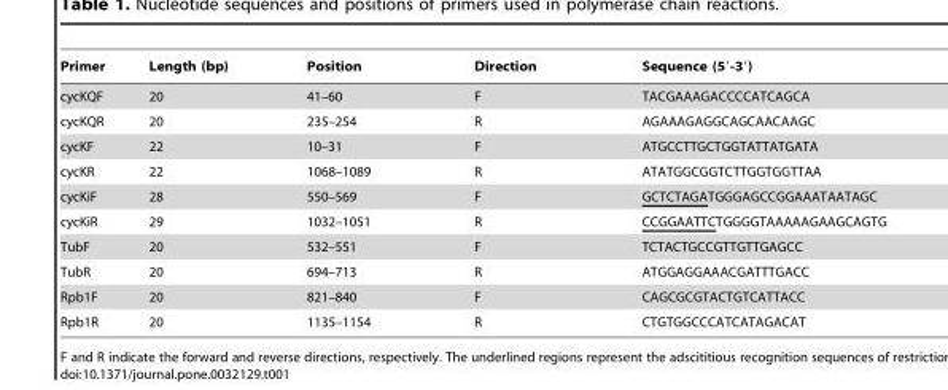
<table><thead><tr><td>Primer</td><td>Length (bp)</td><td>Position</td><td>Direction</td><td>Sequence (5′-3′)</td></tr></thead><tbody><tr><td>cycKQF</td><td>20</td><td>41–60</td><td>F</td><td>TACGAAAGACCCCATCAGCA</td></tr><tr><td>cycKQR</td><td>20</td><td>235–254</td><td>R</td><td>AGAAAGAGGCAGCAACAAGC</td></tr><tr><td>cycKF</td><td>22</td><td>10–31</td><td>F</td><td>ATGCCTTGCTGGTATTATGATA</td></tr><tr><td>cycKR</td><td>22</td><td>1068–1089</td><td>R</td><td>ATATGGCGGTCTTGGTGGTTAA</td></tr><tr><td>cycKiF</td><td>28</td><td>550–569</td><td>F</td><td>GCTCTAGATGGGAGCCGGAAATAATAGC</td></tr><tr><td>cycKiR</td><td>29</td><td>1032–1051</td><td>R</td><td>CCGGAATTCTGGGGTAAAAAGAAGCAGTG</td></tr><tr><td>TubF</td><td>20</td><td>532–551</td><td>F</td><td>TCTACTGCCGTTGTTGAGCC</td></tr><tr><td>TubR</td><td>20</td><td>694–713</td><td>R</td><td>ATGGAGGAAACGATTTGACC</td></tr><tr><td>Rpb1F</td><td>20</td><td>821–840</td><td>F</td><td>CAGCGCGTACTGTCATTACC</td></tr><tr><td>Rpb1R</td><td>20</td><td>1135–1154</td><td>R</td><td>CTGTGGCCCATCATAGACAT</td></tr></tbody></table>